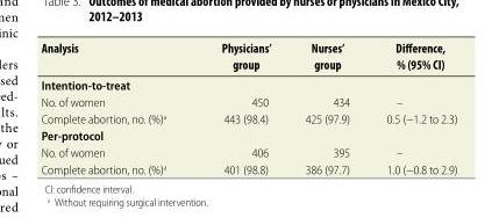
<table><thead><tr><td>Analysis</td><td>Physicians’ group</td><td>Nurses’ group</td><td>Difference, % (95% CI)</td></tr></thead><tbody><tr><td colspan="4">Intention-to-treat</td></tr><tr><td>No. of women</td><td>450</td><td>434</td><td>–</td></tr><tr><td>Complete abortion, no. (%)<sup>a</sup></td><td>443 (98.4)</td><td>425 (97.9)</td><td>0.5 (−1.2 to 2.3)</td></tr><tr><td colspan="4">Per-protocol</td></tr><tr><td>No. of women</td><td>406</td><td>395</td><td>–</td></tr><tr><td>Complete abortion, no. (%)<sup>a</sup></td><td>401 (98.8)</td><td>386 (97.7)</td><td>1.0 (−0.8 to 2.9)</td></tr></tbody></table>